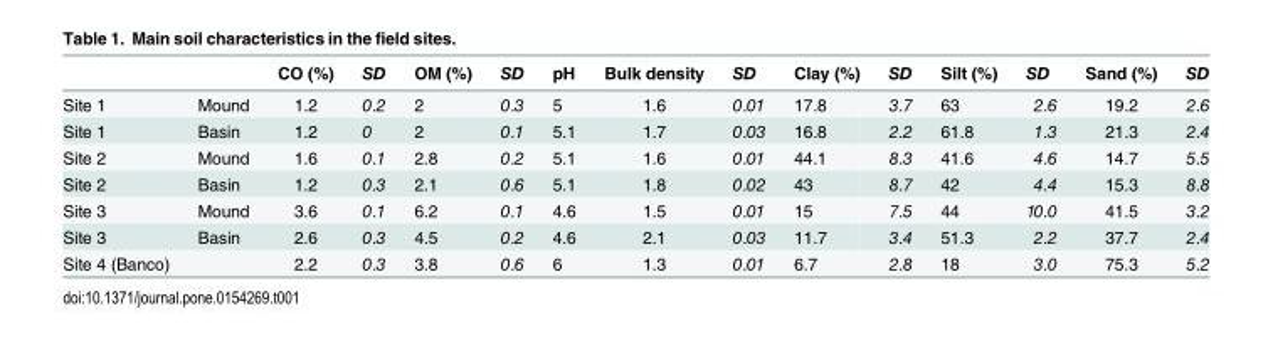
<table><thead><tr><td></td><td></td><td>CO (%)</td><td>SD</td><td>OM (%)</td><td>SD</td><td>pH</td><td>Bulk density</td><td>SD</td><td>Clay (%)</td><td>SD</td><td>Silt (%)</td><td>SD</td><td>Sand (%)</td><td>SD</td></tr></thead><tbody><tr><td>Site 1</td><td>Mound</td><td>1.2</td><td>0.2</td><td>2</td><td>0.3</td><td>5</td><td>1.6</td><td>0.01</td><td>17.8</td><td>3.7</td><td>63</td><td>2.6</td><td>19.2</td><td>2.6</td></tr><tr><td>Site 1</td><td>Basin</td><td>1.2</td><td>0</td><td>2</td><td>0.1</td><td>5.1</td><td>1.7</td><td>0.03</td><td>16.8</td><td>2.2</td><td>61.8</td><td>1.3</td><td>21.3</td><td>2.4</td></tr><tr><td>Site 2</td><td>Mound</td><td>1.6</td><td>0.1</td><td>2.8</td><td>0.2</td><td>5.1</td><td>1.6</td><td>0.01</td><td>44.1</td><td>8.3</td><td>41.6</td><td>4.6</td><td>14.7</td><td>5.5</td></tr><tr><td>Site 2</td><td>Basin</td><td>1.2</td><td>0.3</td><td>2.1</td><td>0.6</td><td>5.1</td><td>1.8</td><td>0.02</td><td>43</td><td>8.7</td><td>42</td><td>4.4</td><td>15.3</td><td>8.8</td></tr><tr><td>Site 3</td><td>Mound</td><td>3.6</td><td>0.1</td><td>6.2</td><td>0.1</td><td>4.6</td><td>1.5</td><td>0.01</td><td>15</td><td>7.5</td><td>44</td><td>10.0</td><td>41.5</td><td>3.2</td></tr><tr><td>Site 3</td><td>Basin</td><td>2.6</td><td>0.3</td><td>4.5</td><td>0.2</td><td>4.6</td><td>2.1</td><td>0.03</td><td>11.7</td><td>3.4</td><td>51.3</td><td>2.2</td><td>37.7</td><td>2.4</td></tr><tr><td>Site 4 (Banco)</td><td></td><td>2.2</td><td>0.3</td><td>3.8</td><td>0.6</td><td>6</td><td>1.3</td><td>0.01</td><td>6.7</td><td>2.8</td><td>18</td><td>3.0</td><td>75.3</td><td>5.2</td></tr></tbody></table>